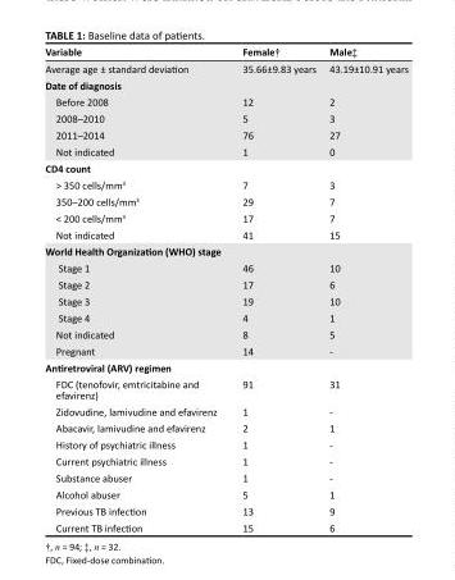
<table><thead><tr><td>Variable</td><td>Female†</td><td>Male‡</td></tr></thead><tbody><tr><td>Average age ± standard deviation</td><td>35.66±9.83 years</td><td>43.19±10.91 years</td></tr><tr><td colspan="3">Date of diagnosis</td></tr><tr><td>Before 2008</td><td>12</td><td>2</td></tr><tr><td>2008–2010</td><td>5</td><td>3</td></tr><tr><td>2011–2014</td><td>76</td><td>27</td></tr><tr><td>Not indicated</td><td>1</td><td>0</td></tr><tr><td colspan="3">CD4 count</td></tr><tr><td>&gt; 350 cells/mm<sup>3</sup></td><td>7</td><td>3</td></tr><tr><td>350–200 cells/mm<sup>3</sup></td><td>29</td><td>7</td></tr><tr><td>&lt; 200 cells/mm<sup>3</sup></td><td>17</td><td>7</td></tr><tr><td>Not indicated</td><td>41</td><td>15</td></tr><tr><td colspan="3">World Health Organization (WHO) stage</td></tr><tr><td>Stage 1</td><td>46</td><td>10</td></tr><tr><td>Stage 2</td><td>17</td><td>6</td></tr><tr><td>Stage 3</td><td>19</td><td>10</td></tr><tr><td>Stage 4</td><td>4</td><td>1</td></tr><tr><td>Not indicated</td><td>8</td><td>5</td></tr><tr><td>Pregnant</td><td>14</td><td>-</td></tr><tr><td colspan="3">Antiretroviral (ARV) regimen</td></tr><tr><td>FDC (tenofovir, emtricitabine and efavirenz)</td><td>91</td><td>31</td></tr><tr><td>Zidovudine, lamivudine and efavirenz</td><td>1</td><td>-</td></tr><tr><td>Abacavir, lamivudine and efavirenz</td><td>2</td><td>1</td></tr><tr><td>History of psychiatric illness</td><td>1</td><td>-</td></tr><tr><td>Current psychiatric illness</td><td>1</td><td>-</td></tr><tr><td>Substance abuser</td><td>1</td><td>-</td></tr><tr><td>Alcohol abuser</td><td>5</td><td>1</td></tr><tr><td>Previous TB infection</td><td>13</td><td>9</td></tr><tr><td>Current TB infection</td><td>15</td><td>6</td></tr></tbody></table>